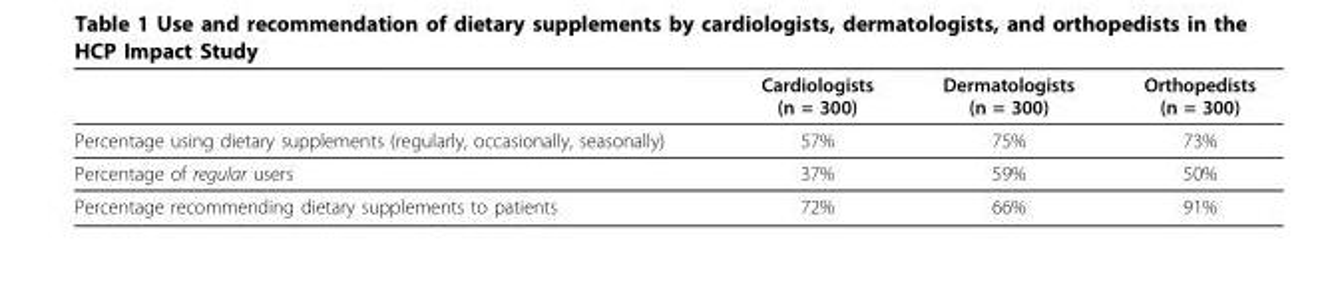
<table><thead><tr><td></td><td>Cardiologists (n = 300)</td><td>Dermatologists (n = 300)</td><td>Orthopedists (n = 300)</td></tr></thead><tbody><tr><td>Percentage using dietary supplements (regularly, occasionally, seasonally)</td><td>57%</td><td>75%</td><td>73%</td></tr><tr><td>Percentage of regular users</td><td>37%</td><td>59%</td><td>50%</td></tr><tr><td>Percentage recommending dietary supplements to patients</td><td>72%</td><td>66%</td><td>91%</td></tr></tbody></table>